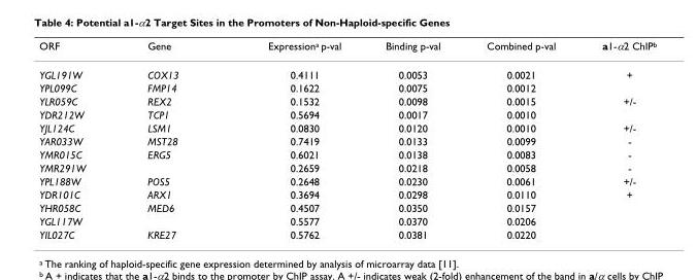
<table><thead><tr><td>ORF</td><td>Gene</td><td>Expression<sup>a</sup> p-val</td><td>Binding p-val</td><td>Combined p-val</td><td>a1-α2 ChIP<sup>b</sup></td></tr></thead><tbody><tr><td>YGL191W</td><td>COX13</td><td>0.4111</td><td>0.0053</td><td>0.0021</td><td>+</td></tr><tr><td>YPL099C</td><td>FMP14</td><td>0.1622</td><td>0.0075</td><td>0.0012</td><td></td></tr><tr><td>YLR059C</td><td>REX2</td><td>0.1532</td><td>0.0098</td><td>0.0015</td><td>+/-</td></tr><tr><td>YDR212W</td><td>TCP1</td><td>0.5694</td><td>0.0017</td><td>0.0010</td><td></td></tr><tr><td>YJL124C</td><td>LSM1</td><td>0.0830</td><td>0.0120</td><td>0.0010</td><td>+/-</td></tr><tr><td>YAR033W</td><td>MST28</td><td>0.7419</td><td>0.0133</td><td>0.0099</td><td>-</td></tr><tr><td>YMR015C</td><td>ERG5</td><td>0.6021</td><td>0.0138</td><td>0.0083</td><td>-</td></tr><tr><td>YMR291W</td><td></td><td>0.2659</td><td>0.0218</td><td>0.0058</td><td>-</td></tr><tr><td>YPL188W</td><td>POS5</td><td>0.2648</td><td>0.0230</td><td>0.0061</td><td>+/-</td></tr><tr><td>YDR101C</td><td>ARX1</td><td>0.3694</td><td>0.0298</td><td>0.0110</td><td>+</td></tr><tr><td>YHR058C</td><td>MED6</td><td>0.4507</td><td>0.0350</td><td>0.0157</td><td></td></tr><tr><td>YGL117W</td><td></td><td>0.5577</td><td>0.0370</td><td>0.0206</td><td></td></tr><tr><td>YIL027C</td><td>KRE27</td><td>0.5762</td><td>0.0381</td><td>0.0220</td><td></td></tr></tbody></table>